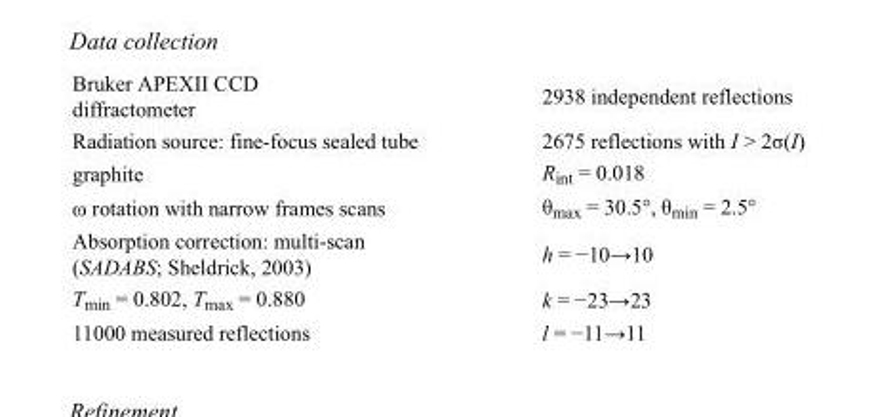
<table><tbody><tr><td>Bruker APEXII CCD diffractometer</td><td>2938 independent reflections</td></tr><tr><td>Radiation source: fine-focus sealed tube</td><td>2675 reflections with I &gt; 2σ(I)</td></tr><tr><td>graphite</td><td>R<sub>int</sub> = 0.018</td></tr><tr><td>ω rotation with narrow frames scans</td><td>θ<sub>max</sub> = 30.5°, θ<sub>min</sub> = 2.5°</td></tr><tr><td>Absorption correction: multi-scan (SADABS; Sheldrick, 2003)</td><td>h = −10→10</td></tr><tr><td>T<sub>min</sub> = 0.802, T<sub>max</sub> = 0.880</td><td>k = −23→23</td></tr><tr><td>11000 measured reflections</td><td>l = −11→11</td></tr></tbody></table>